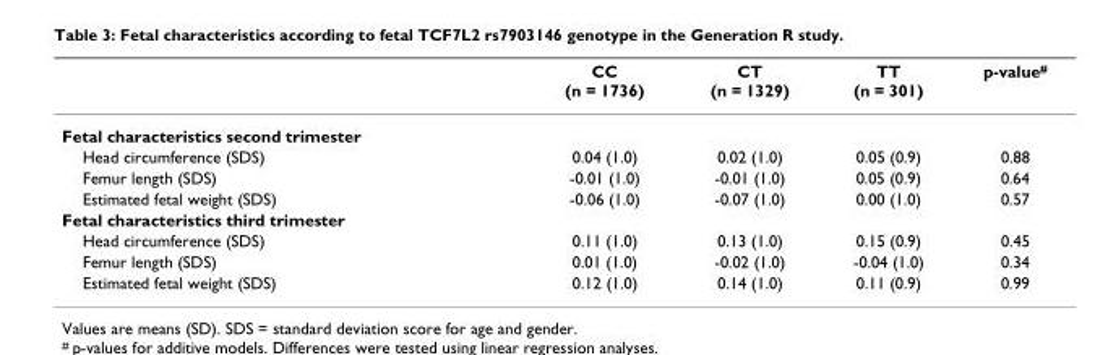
<table><thead><tr><td></td><td>CC (n = 1736)</td><td>CT (n = 1329)</td><td>TT (n = 301)</td><td>p-value<sup>#</sup></td></tr></thead><tbody><tr><td colspan="5">Fetal characteristics second trimester</td></tr><tr><td>Head circumference (SDS)</td><td>0.04 (1.0)</td><td>0.02 (1.0)</td><td>0.05 (0.9)</td><td>0.88</td></tr><tr><td>Femur length (SDS)</td><td>-0.01 (1.0)</td><td>-0.01 (1.0)</td><td>0.05 (0.9)</td><td>0.64</td></tr><tr><td>Estimated fetal weight (SDS)</td><td>-0.06 (1.0)</td><td>-0.07 (1.0)</td><td>0.00 (1.0)</td><td>0.57</td></tr><tr><td colspan="5">Fetal characteristics third trimester</td></tr><tr><td>Head circumference (SDS)</td><td>0.11 (1.0)</td><td>0.13 (1.0)</td><td>0.15 (0.9)</td><td>0.45</td></tr><tr><td>Femur length (SDS)</td><td>0.01 (1.0)</td><td>-0.02 (1.0)</td><td>-0.04 (1.0)</td><td>0.34</td></tr><tr><td>Estimated fetal weight (SDS)</td><td>0.12 (1.0)</td><td>0.14 (1.0)</td><td>0.11 (0.9)</td><td>0.99</td></tr></tbody></table>